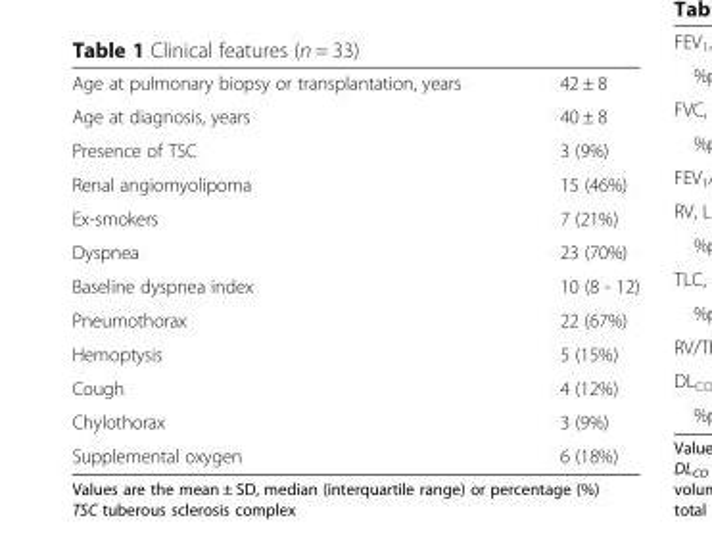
<table><tbody><tr><td>Age at pulmonary biopsy or transplantation, years</td><td>42 ± 8</td></tr><tr><td>Age at diagnosis, years</td><td>40 ± 8</td></tr><tr><td>Presence of TSC</td><td>3 (9%)</td></tr><tr><td>Renal angiomyolipoma</td><td>15 (46%)</td></tr><tr><td>Ex-smokers</td><td>7 (21%)</td></tr><tr><td>Dyspnea</td><td>23 (70%)</td></tr><tr><td>Baseline dyspnea index</td><td>10 (8 - 12)</td></tr><tr><td>Pneumothorax</td><td>22 (67%)</td></tr><tr><td>Hemoptysis</td><td>5 (15%)</td></tr><tr><td>Cough</td><td>4 (12%)</td></tr><tr><td>Chylothorax</td><td>3 (9%)</td></tr><tr><td>Supplemental oxygen</td><td>6 (18%)</td></tr></tbody></table>